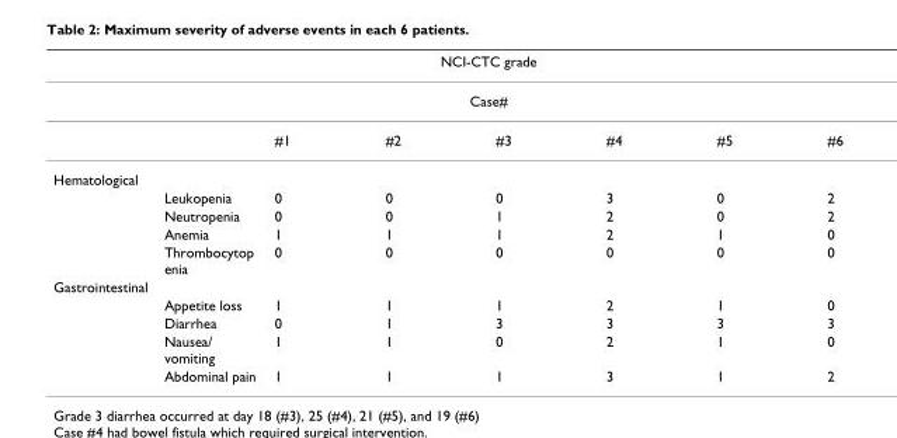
<table><thead><tr><td rowspan="2" colspan="8">NCI-CTC grade Case#</td></tr><tr></tr><tr><td></td><td></td><td>#1</td><td>#2</td><td>#3</td><td>#4</td><td>#5</td><td>#6</td></tr></thead><tbody><tr><td colspan="8">Hematological</td></tr><tr><td></td><td>Leukopenia</td><td>0</td><td>0</td><td>0</td><td>3</td><td>0</td><td>2</td></tr><tr><td></td><td>Neutropenia</td><td>0</td><td>0</td><td>1</td><td>2</td><td>0</td><td>2</td></tr><tr><td></td><td>Anemia</td><td>1</td><td>1</td><td>1</td><td>2</td><td>1</td><td>0</td></tr><tr><td></td><td>Thrombocytop enia</td><td>0</td><td>0</td><td>0</td><td>0</td><td>0</td><td>0</td></tr><tr><td colspan="8">Gastrointestinal</td></tr><tr><td></td><td>Appetite loss</td><td>1</td><td>1</td><td>1</td><td>2</td><td>1</td><td>0</td></tr><tr><td></td><td>Diarrhea</td><td>0</td><td>1</td><td>3</td><td>3</td><td>3</td><td>3</td></tr><tr><td></td><td>Nausea/ vomiting</td><td>1</td><td>1</td><td>0</td><td>2</td><td>1</td><td>0</td></tr><tr><td></td><td>Abdominal pain</td><td>1</td><td>1</td><td>1</td><td>3</td><td>1</td><td>2</td></tr></tbody></table>